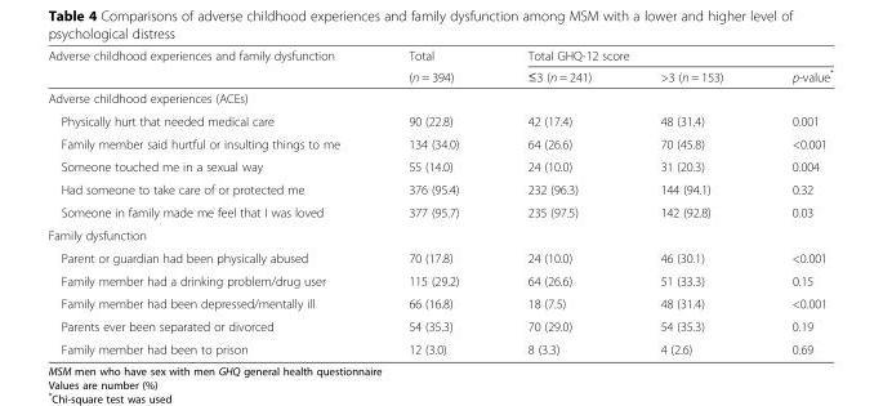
<table><thead><tr><td rowspan="2">Adverse childhood experiences and family dysfunction</td><td rowspan="2">Total (n = 394)</td><td colspan="3">Total GHQ-12 score</td></tr><tr><td>≤3 (n = 241)</td><td>&gt;3 (n = 153)</td><td>p-value*</td></tr></thead><tbody><tr><td colspan="5">Adverse childhood experiences (ACEs)</td></tr><tr><td>Physically hurt that needed medical care</td><td>90 (22.8)</td><td>42 (17.4)</td><td>48 (31.4)</td><td>0.001</td></tr><tr><td>Family member said hurtful or insulting things to me</td><td>134 (34.0)</td><td>64 (26.6)</td><td>70 (45.8)</td><td>&lt;0.001</td></tr><tr><td>Someone touched me in a sexual way</td><td>55 (14.0)</td><td>24 (10.0)</td><td>31 (20.3)</td><td>0.004</td></tr><tr><td>Had someone to take care of or protected me</td><td>376 (95.4)</td><td>232 (96.3)</td><td>144 (94.1)</td><td>0.32</td></tr><tr><td>Someone in family made me feel that I was loved</td><td>377 (95.7)</td><td>235 (97.5)</td><td>142 (92.8)</td><td>0.03</td></tr><tr><td colspan="5">Family dysfunction</td></tr><tr><td>Parent or guardian had been physically abused</td><td>70 (17.8)</td><td>24 (10.0)</td><td>46 (30.1)</td><td>&lt;0.001</td></tr><tr><td>Family member had a drinking problem/drug user</td><td>115 (29.2)</td><td>64 (26.6)</td><td>51 (33.3)</td><td>0.15</td></tr><tr><td>Family member had been depressed/mentally ill</td><td>66 (16.8)</td><td>18 (7.5)</td><td>48 (31.4)</td><td>&lt;0.001</td></tr><tr><td>Parents ever been separated or divorced</td><td>54 (35.3)</td><td>70 (29.0)</td><td>54 (35.3)</td><td>0.19</td></tr><tr><td>Family member had been to prison</td><td>12 (3.0)</td><td>8 (3.3)</td><td>4 (2.6)</td><td>0.69</td></tr></tbody></table>